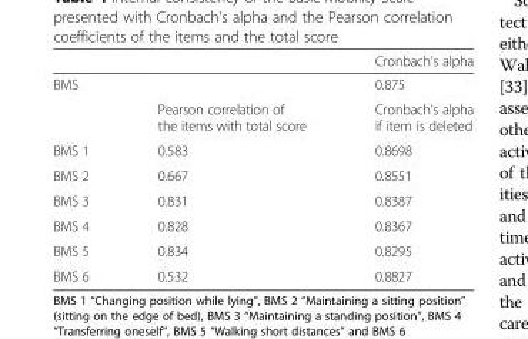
<table><thead><tr><td></td><td></td><td>Cronbach’s alpha</td></tr></thead><tbody><tr><td rowspan="2">BMS</td><td></td><td>0.875</td></tr><tr><td>Pearson correlation of the items with total score</td><td>Cronbach’s alpha if item is deleted</td></tr><tr><td>BMS 1</td><td>0.583</td><td>0.8698</td></tr><tr><td>BMS 2</td><td>0.667</td><td>0.8551</td></tr><tr><td>BMS 3</td><td>0.831</td><td>0.8387</td></tr><tr><td>BMS 4</td><td>0.828</td><td>0.8367</td></tr><tr><td>BMS 5</td><td>0.834</td><td>0.8295</td></tr><tr><td>BMS 6</td><td>0.532</td><td>0.8827</td></tr></tbody></table>